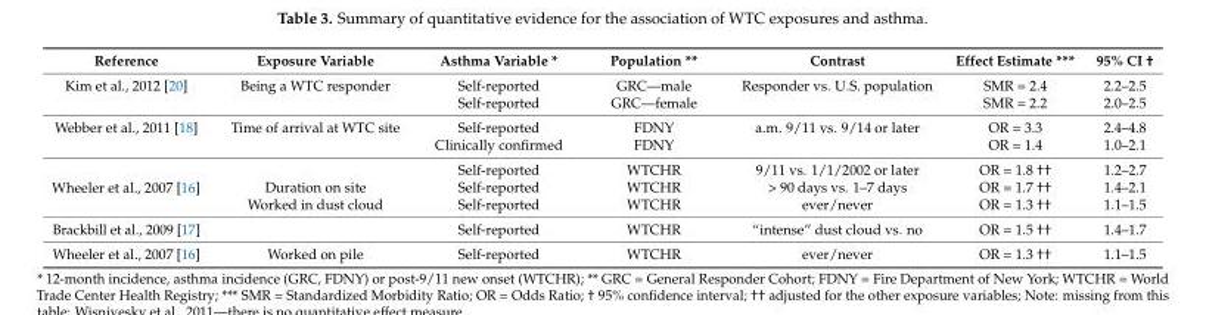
<table><thead><tr><td>Reference</td><td>Exposure Variable</td><td>Asthma Variable *</td><td>Population **</td><td>Contrast</td><td>Effect Estimate ***</td><td>95% CI †</td></tr></thead><tbody><tr><td rowspan="2">Kim et al., 2012 [20]</td><td>Being a WTC responder</td><td>Self-reported</td><td>GRC—male</td><td>Responder vs. U.S. population</td><td>SMR = 2.4</td><td>2.2–2.5</td></tr><tr><td></td><td>Self-reported</td><td>GRC—female</td><td></td><td>SMR = 2.2</td><td>2.0–2.5</td></tr><tr><td rowspan="2">Webber et al., 2011 [18]</td><td>Time of arrival at WTC site</td><td>Self-reported</td><td>FDNY</td><td>a.m. 9/11 vs. 9/14 or later</td><td>OR = 3.3</td><td>2.4–4.8</td></tr><tr><td></td><td>Clinically confirmed</td><td>FDNY</td><td></td><td>OR = 1.4</td><td>1.0–2.1</td></tr><tr><td rowspan="3">Wheeler et al., 2007 [16]</td><td></td><td>Self-reported</td><td>WTCHR</td><td>9/11 vs. 1/1/2002 or later</td><td>OR = 1.8 ††</td><td>1.2–2.7</td></tr><tr><td>Duration on site</td><td>Self-reported</td><td>WTCHR</td><td>&gt; 90 days vs. 1–7 days</td><td>OR = 1.7 ††</td><td>1.4–2.1</td></tr><tr><td>Worked in dust cloud</td><td>Self-reported</td><td>WTCHR</td><td>ever/never</td><td>OR = 1.3 ††</td><td>1.1–1.5</td></tr><tr><td>Brackbill et al., 2009 [17]</td><td></td><td>Self-reported</td><td>WTCHR</td><td>“intense” dust cloud vs. no</td><td>OR = 1.5 ††</td><td>1.4–1.7</td></tr><tr><td>Wheeler et al., 2007 [16]</td><td>Worked on pile</td><td>Self-reported</td><td>WTCHR</td><td>ever/never</td><td>OR = 1.3 ††</td><td>1.1–1.5</td></tr></tbody></table>